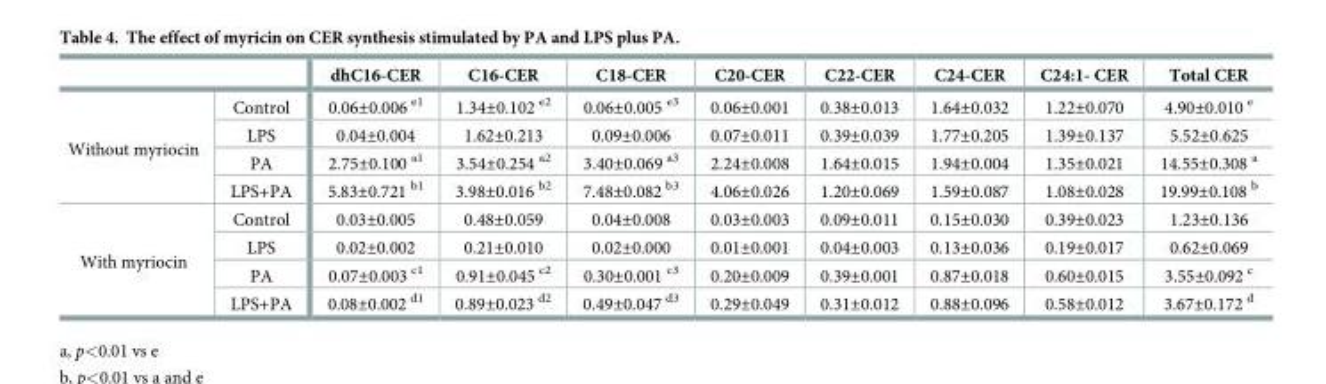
<table><thead><tr><td></td><td></td><td>dhC16-CER</td><td>C16-CER</td><td>C18-CER</td><td>C20-CER</td><td>C22-CER</td><td>C24-CER</td><td>C24:1- CER</td><td>Total CER</td></tr></thead><tbody><tr><td rowspan="4">Without myriocin</td><td>Control</td><td>0.06±0.006 <sup>e1</sup></td><td>1.34±0.102 <sup>e2</sup></td><td>0.06±0.005 <sup>e3</sup></td><td>0.06±0.001</td><td>0.38±0.013</td><td>1.64±0.032</td><td>1.22±0.070</td><td>4.90±0.010 <sup>e</sup></td></tr><tr><td>LPS</td><td>0.04±0.004</td><td>1.62±0.213</td><td>0.09±0.006</td><td>0.07±0.011</td><td>0.39±0.039</td><td>1.77±0.205</td><td>1.39±0.137</td><td>5.52±0.625</td></tr><tr><td>PA</td><td>2.75±0.100 <sup>a1</sup></td><td>3.54±0.254 <sup>a2</sup></td><td>3.40±0.069 <sup>a3</sup></td><td>2.24±0.008</td><td>1.64±0.015</td><td>1.94±0.004</td><td>1.35±0.021</td><td>14.55±0.308 <sup>a</sup></td></tr><tr><td>LPS+PA</td><td>5.83±0.721 <sup>b1</sup></td><td>3.98±0.016 <sup>b2</sup></td><td>7.48±0.082 <sup>b3</sup></td><td>4.06±0.026</td><td>1.20±0.069</td><td>1.59±0.087</td><td>1.08±0.028</td><td>19.99±0.108 <sup>b</sup></td></tr><tr><td rowspan="4">With myriocin</td><td>Control</td><td>0.03±0.005</td><td>0.48±0.059</td><td>0.04±0.008</td><td>0.03±0.003</td><td>0.09±0.011</td><td>0.15±0.030</td><td>0.39±0.023</td><td>1.23±0.136</td></tr><tr><td>LPS</td><td>0.02±0.002</td><td>0.21±0.010</td><td>0.02±0.000</td><td>0.01±0.001</td><td>0.04±0.003</td><td>0.13±0.036</td><td>0.19±0.017</td><td>0.62±0.069</td></tr><tr><td>PA</td><td>0.07±0.003 <sup>c1</sup></td><td>0.91±0.045 <sup>c2</sup></td><td>0.30±0.001 <sup>c3</sup></td><td>0.20±0.009</td><td>0.39±0.001</td><td>0.87±0.018</td><td>0.60±0.015</td><td>3.55±0.092 <sup>c</sup></td></tr><tr><td>LPS+PA</td><td>0.08±0.002 <sup>d1</sup></td><td>0.89±0.023 <sup>d2</sup></td><td>0.49±0.047 <sup>d3</sup></td><td>0.29±0.049</td><td>0.31±0.012</td><td>0.88±0.096</td><td>0.58±0.012</td><td>3.67±0.172 <sup>d</sup></td></tr></tbody></table>